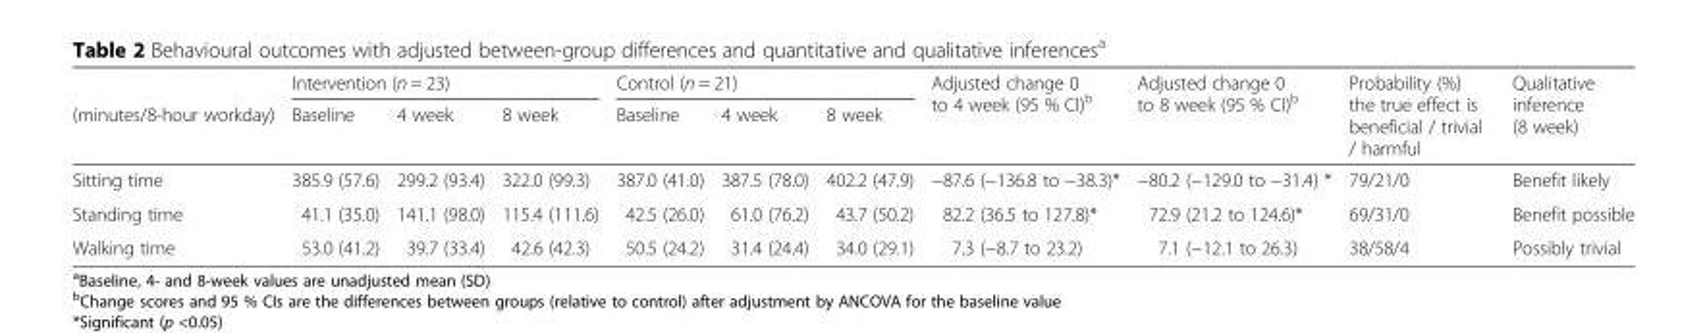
<table><thead><tr><td rowspan="2">(minutes/8-hour workday)</td><td colspan="3">Intervention (n = 23)</td><td colspan="3">Control (n = 21)</td><td rowspan="2">Adjusted change 0 to 4 week (95 % CI)<sup>b</sup></td><td rowspan="2">Adjusted change 0 to 8 week (95 % CI)<sup>b</sup></td><td rowspan="2">Probability (%) the true effect is beneficial / trivial / harmful</td><td rowspan="2">Qualitative inference (8 week)</td></tr><tr><td>Baseline</td><td>4 week</td><td>8 week</td><td>Baseline</td><td>4 week</td><td>8 week</td></tr></thead><tbody><tr><td>Sitting time</td><td>385.9 (57.6)</td><td>299.2 (93.4)</td><td>322.0 (99.3)</td><td>387.0 (41.0)</td><td>387.5 (78.0)</td><td>402.2 (47.9)</td><td>−87.6 (−136.8 to −38.3)*</td><td>−80.2 (−129.0 to −31.4) *</td><td>79/21/0</td><td>Benefit likely</td></tr><tr><td>Standing time</td><td>41.1 (35.0)</td><td>141.1 (98.0)</td><td>115.4 (111.6)</td><td>42.5 (26.0)</td><td>61.0 (76.2)</td><td>43.7 (50.2)</td><td>82.2 (36.5 to 127.8)*</td><td>72.9 (21.2 to 124.6)*</td><td>69/31/0</td><td>Benefit possible</td></tr><tr><td>Walking time</td><td>53.0 (41.2)</td><td>39.7 (33.4)</td><td>42.6 (42.3)</td><td>50.5 (24.2)</td><td>31.4 (24.4)</td><td>34.0 (29.1)</td><td>7.3 (−8.7 to 23.2)</td><td>7.1 (−12.1 to 26.3)</td><td>38/58/4</td><td>Possibly trivial</td></tr></tbody></table>